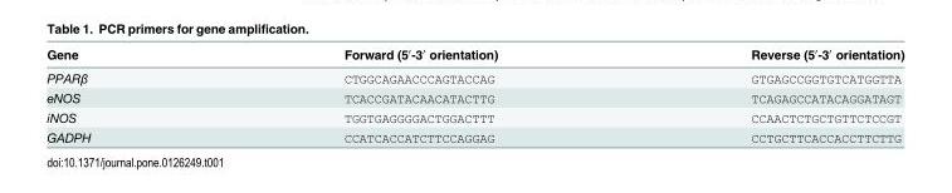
<table><thead><tr><td>Gene</td><td>Forward (5′-3′ orientation)</td><td>Reverse (5′-3′ orientation)</td></tr></thead><tbody><tr><td>PPARβ</td><td>CTGGCAGAACCCAGTACCAG</td><td>GTGAGCCGGTGTCATGGTTA</td></tr><tr><td>eNOS</td><td>TCACCGATACAACATACTTG</td><td>TCAGAGCCATACAGGATAGT</td></tr><tr><td>iNOS</td><td>TGGTGAGGGGACTGGACTTT</td><td>CCAACTCTGCTGTTCTCCGT</td></tr><tr><td>GADPH</td><td>CCATCACCATCTTCCAGGAG</td><td>CCTGCTTCACCACCTTCTTG</td></tr></tbody></table>